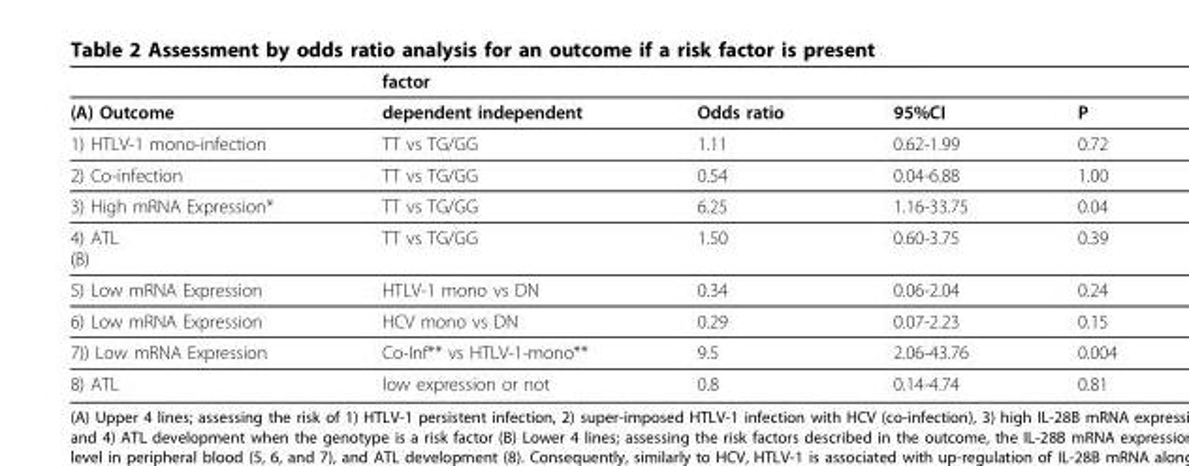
<table><thead><tr><td rowspan="2">(A) Outcome</td><td colspan="4">factor</td></tr><tr><td>dependent independent</td><td>Odds ratio</td><td>95%CI</td><td>P</td></tr></thead><tbody><tr><td>1) HTLV-1 mono-infection</td><td>TT vs TG/GG</td><td>1.11</td><td>0.62-1.99</td><td>0.72</td></tr><tr><td>2) Co-infection</td><td>TT vs TG/GG</td><td>0.54</td><td>0.04-6.88</td><td>1.00</td></tr><tr><td>3) High mRNA Expression*</td><td>TT vs TG/GG</td><td>6.25</td><td>1.16-33.75</td><td>0.04</td></tr><tr><td>4) ATL (B)</td><td>TT vs TG/GG</td><td>1.50</td><td>0.60-3.75</td><td>0.39</td></tr><tr><td>5) Low mRNA Expression</td><td>HTLV-1 mono vs DN</td><td>0.34</td><td>0.06-2.04</td><td>0.24</td></tr><tr><td>6) Low mRNA Expression</td><td>HCV mono vs DN</td><td>0.29</td><td>0.07-2.23</td><td>0.15</td></tr><tr><td>7)) Low mRNA Expression</td><td>Co-Inf** vs HTLV-1-mono**</td><td>9.5</td><td>2.06-43.76</td><td>0.004</td></tr><tr><td>8) ATL</td><td>low expression or not</td><td>0.8</td><td>0.14-4.74</td><td>0.81</td></tr></tbody></table>